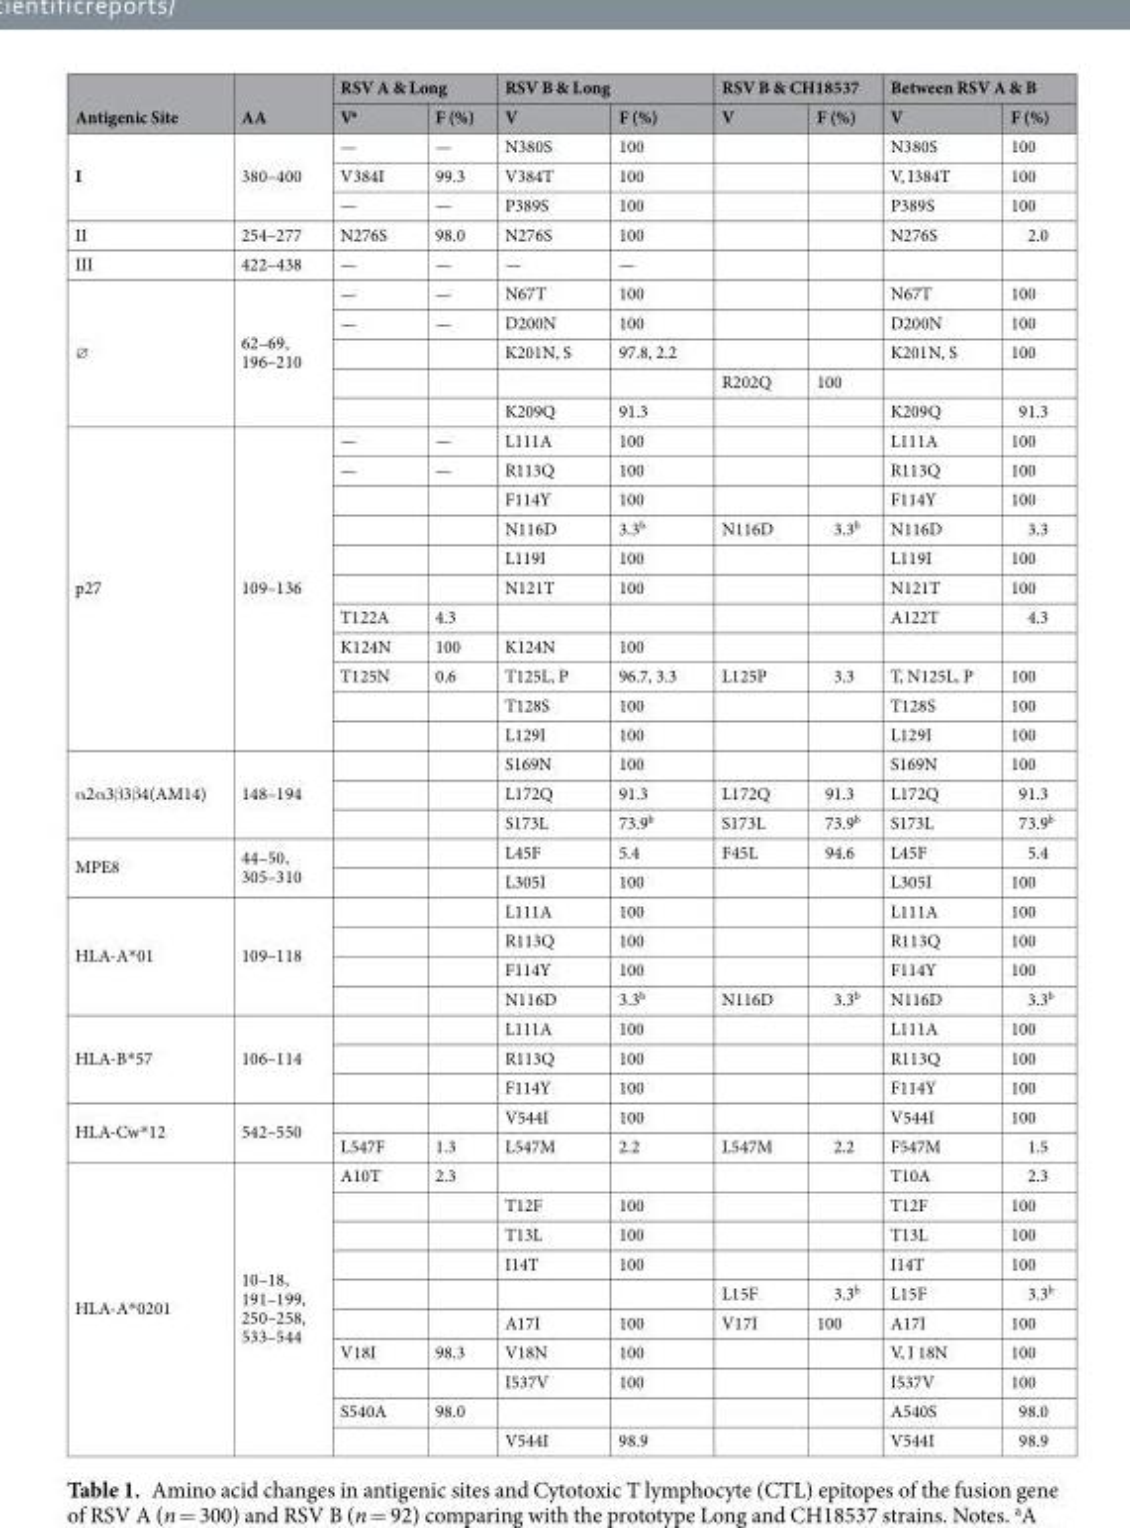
<table><thead><tr><td rowspan="2">Antigenic Site</td><td rowspan="2">AA</td><td colspan="2">RSV A &amp; Long</td><td colspan="2">RSV B &amp; Long</td><td colspan="2">RSV B &amp; CH18537</td><td colspan="2">Between RSV A &amp; B</td></tr><tr><td>V<sup>a</sup></td><td>F (%)</td><td>V</td><td>F (%)</td><td>V</td><td>F (%)</td><td>V</td><td>F (%)</td></tr></thead><tbody><tr><td rowspan="3">I</td><td rowspan="3">380–400</td><td>—</td><td>—</td><td>N380S</td><td>100</td><td></td><td></td><td>N380S</td><td>100</td></tr><tr><td>V384I</td><td>99.3</td><td>V384T</td><td>100</td><td></td><td></td><td>V, I384T</td><td>100</td></tr><tr><td>—</td><td>—</td><td>P389S</td><td>100</td><td></td><td></td><td>P389S</td><td>100</td></tr><tr><td>II</td><td>254–277</td><td>N276S</td><td>98.0</td><td>N276S</td><td>100</td><td></td><td></td><td>N276S</td><td>2.0</td></tr><tr><td>III</td><td>422–438</td><td>—</td><td>—</td><td>—</td><td>—</td><td></td><td></td><td></td><td></td></tr><tr><td rowspan="5">∅</td><td rowspan="5">62–69, 196–210</td><td>—</td><td>—</td><td>N67T</td><td>100</td><td></td><td></td><td>N67T</td><td>100</td></tr><tr><td>—</td><td>—</td><td>D200N</td><td>100</td><td></td><td></td><td>D200N</td><td>100</td></tr><tr><td></td><td></td><td>K201N, S</td><td>97.8, 2.2</td><td></td><td></td><td>K201N, S</td><td>100</td></tr><tr><td></td><td></td><td></td><td></td><td>R202Q</td><td>100</td><td></td><td></td></tr><tr><td></td><td></td><td>K209Q</td><td>91.3</td><td></td><td></td><td>K209Q</td><td>91.3</td></tr><tr><td rowspan="11">p27</td><td rowspan="11">109–136</td><td>—</td><td>—</td><td>L111A</td><td>100</td><td></td><td></td><td>L111A</td><td>100</td></tr><tr><td>—</td><td>—</td><td>R113Q</td><td>100</td><td></td><td></td><td>R113Q</td><td>100</td></tr><tr><td></td><td></td><td>F114Y</td><td>100</td><td></td><td></td><td>F114Y</td><td>100</td></tr><tr><td></td><td></td><td>N116D</td><td>3.3<sup>b</sup></td><td>N116D</td><td>3.3<sup>b</sup></td><td>N116D</td><td>3.3</td></tr><tr><td></td><td></td><td>L119I</td><td>100</td><td></td><td></td><td>L119I</td><td>100</td></tr><tr><td></td><td></td><td>N121T</td><td>100</td><td></td><td></td><td>N121T</td><td>100</td></tr><tr><td>T122A</td><td>4.3</td><td></td><td></td><td></td><td></td><td>A122T</td><td>4.3</td></tr><tr><td>K124N</td><td>100</td><td>K124N</td><td>100</td><td></td><td></td><td></td><td></td></tr><tr><td>T125N</td><td>0.6</td><td>T125L, P</td><td>96.7, 3.3</td><td>L125P</td><td>3.3</td><td>T, N125L, P</td><td>100</td></tr><tr><td></td><td></td><td>T128S</td><td>100</td><td></td><td></td><td>T128S</td><td>100</td></tr><tr><td></td><td></td><td>L129I</td><td>100</td><td></td><td></td><td>L129I</td><td>100</td></tr><tr><td rowspan="3">α2α3β3β4(AM14)</td><td rowspan="3">148–194</td><td></td><td></td><td>S169N</td><td>100</td><td></td><td></td><td>S169N</td><td>100</td></tr><tr><td></td><td></td><td>L172Q</td><td>91.3</td><td>L172Q</td><td>91.3</td><td>L172Q</td><td>91.3</td></tr><tr><td></td><td></td><td>S173L</td><td>73.9<sup>b</sup></td><td>S173L</td><td>73.9<sup>b</sup></td><td>S173L</td><td>73.9<sup>b</sup></td></tr><tr><td rowspan="2">MPE8</td><td rowspan="2">44–50, 305–310</td><td></td><td></td><td>L45F</td><td>5.4</td><td>F45L</td><td>94.6</td><td>L45F</td><td>5.4</td></tr><tr><td></td><td></td><td>L305I</td><td>100</td><td></td><td></td><td>L305I</td><td>100</td></tr><tr><td rowspan="4">HLA-A*01</td><td rowspan="4">109–118</td><td></td><td></td><td>L111A</td><td>100</td><td></td><td></td><td>L111A</td><td>100</td></tr><tr><td></td><td></td><td>R113Q</td><td>100</td><td></td><td></td><td>R113Q</td><td>100</td></tr><tr><td></td><td></td><td>F114Y</td><td>100</td><td></td><td></td><td>F114Y</td><td>100</td></tr><tr><td></td><td></td><td>N116D</td><td>3.3<sup>b</sup></td><td>N116D</td><td>3.3<sup>b</sup></td><td>N116D</td><td>3.3<sup>b</sup></td></tr><tr><td rowspan="3">HLA-B*57</td><td rowspan="3">106–114</td><td></td><td></td><td>L111A</td><td>100</td><td></td><td></td><td>L111A</td><td>100</td></tr><tr><td></td><td></td><td>R113Q</td><td>100</td><td></td><td></td><td>R113Q</td><td>100</td></tr><tr><td></td><td></td><td>F114Y</td><td>100</td><td></td><td></td><td>F114Y</td><td>100</td></tr><tr><td rowspan="2">HLA-Cw*12</td><td rowspan="2">542–550</td><td></td><td></td><td>V544I</td><td>100</td><td></td><td></td><td>V544I</td><td>100</td></tr><tr><td>L547F</td><td>1.3</td><td>L547M</td><td>2.2</td><td>L547M</td><td>2.2</td><td>F547M</td><td>1.5</td></tr><tr><td rowspan="10">HLA-A*0201</td><td rowspan="10">10–18, 191–199, 250–258, 533–544</td><td>A10T</td><td>2.3</td><td></td><td></td><td></td><td></td><td>T10A</td><td>2.3</td></tr><tr><td></td><td></td><td>T12F</td><td>100</td><td></td><td></td><td>T12F</td><td>100</td></tr><tr><td></td><td></td><td>T13L</td><td>100</td><td></td><td></td><td>T13L</td><td>100</td></tr><tr><td></td><td></td><td>I14T</td><td>100</td><td></td><td></td><td>I14T</td><td>100</td></tr><tr><td></td><td></td><td></td><td></td><td>L15F</td><td>3.3<sup>b</sup></td><td>L15F</td><td>3.3<sup>b</sup></td></tr><tr><td></td><td></td><td>A17I</td><td>100</td><td>V17I</td><td>100</td><td>A17I</td><td>100</td></tr><tr><td>V18I</td><td>98.3</td><td>V18N</td><td>100</td><td></td><td></td><td>V, I 18N</td><td>100</td></tr><tr><td></td><td></td><td>I537V</td><td>100</td><td></td><td></td><td>I537V</td><td>100</td></tr><tr><td>S540A</td><td>98.0</td><td></td><td></td><td></td><td></td><td>A540S</td><td>98.0</td></tr><tr><td></td><td></td><td>V544I</td><td>98.9</td><td></td><td></td><td>V544I</td><td>98.9</td></tr></tbody></table>